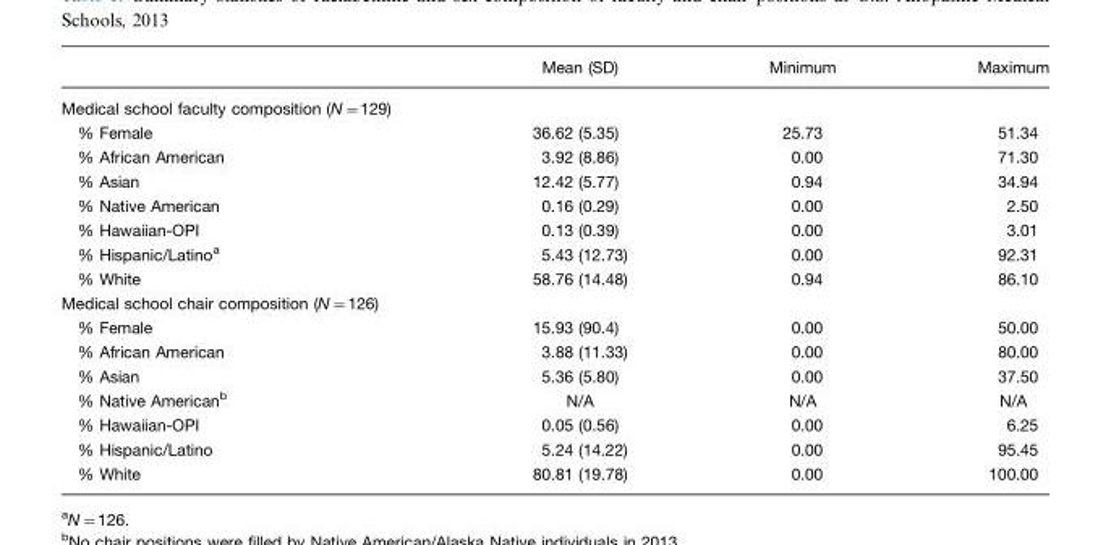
<table><thead><tr><td></td><td>Mean (SD)</td><td>Minimum</td><td>Maximum</td></tr></thead><tbody><tr><td colspan="4">Medical school faculty composition (N=129)</td></tr><tr><td>% Female</td><td>36.62 (5.35)</td><td>25.73</td><td>51.34</td></tr><tr><td>% African American</td><td>3.92 (8.86)</td><td>0.00</td><td>71.30</td></tr><tr><td>% Asian</td><td>12.42 (5.77)</td><td>0.94</td><td>34.94</td></tr><tr><td>% Native American</td><td>0.16 (0.29)</td><td>0.00</td><td>2.50</td></tr><tr><td>% Hawaiian-OPI</td><td>0.13 (0.39)</td><td>0.00</td><td>3.01</td></tr><tr><td>% Hispanic/Latino<sup>a</sup></td><td>5.43 (12.73)</td><td>0.00</td><td>92.31</td></tr><tr><td>% White</td><td>58.76 (14.48)</td><td>0.94</td><td>86.10</td></tr><tr><td colspan="4">Medical school chair composition (N=126)</td></tr><tr><td>% Female</td><td>15.93 (90.4)</td><td>0.00</td><td>50.00</td></tr><tr><td>% African American</td><td>3.88 (11.33)</td><td>0.00</td><td>80.00</td></tr><tr><td>% Asian</td><td>5.36 (5.80)</td><td>0.00</td><td>37.50</td></tr><tr><td>% Native American<sup>b</sup></td><td>N/A</td><td>N/A</td><td>N/A</td></tr><tr><td>% Hawaiian-OPI</td><td>0.05 (0.56)</td><td>0.00</td><td>6.25</td></tr><tr><td>% Hispanic/Latino</td><td>5.24 (14.22)</td><td>0.00</td><td>95.45</td></tr><tr><td>% White</td><td>80.81 (19.78)</td><td>0.00</td><td>100.00</td></tr></tbody></table>